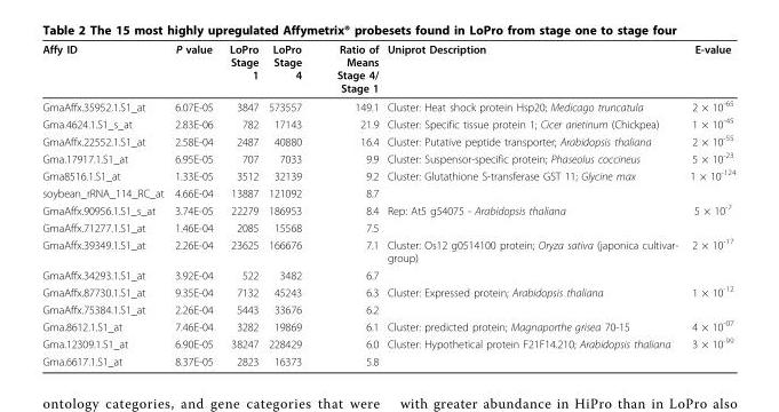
<table><thead><tr><td>Affy ID</td><td>P value</td><td>LoPro Stage 1</td><td>LoPro Stage 4</td><td>Ratio of Means Stage 4/ Stage 1</td><td>Uniprot Description</td><td>E-value</td></tr></thead><tbody><tr><td>GmaAffx.35952.1.S1_at</td><td>6.07E-05</td><td>3847</td><td>573557</td><td>149.1</td><td>Cluster: Heat shock protein Hsp20; Medicago truncatula</td><td>2 × 10<sup>-65</sup></td></tr><tr><td>Gma.4624.1.S1_s_at</td><td>2.83E-06</td><td>782</td><td>17143</td><td>21.9</td><td>Cluster: Specific tissue protein 1; Cicer arietinum (Chickpea)</td><td>1 × 10<sup>-45</sup></td></tr><tr><td>GmaAffx.22552.1.S1_at</td><td>2.58E-04</td><td>2487</td><td>40880</td><td>16.4</td><td>Cluster: Putative peptide transporter; Arabidopsis thaliana</td><td>2 × 10<sup>-55</sup></td></tr><tr><td>Gma.17917.1.S1_at</td><td>6.95E-05</td><td>707</td><td>7033</td><td>9.9</td><td>Cluster: Suspensor-specific protein; Phaseolus coccineus</td><td>5 × 10<sup>-23</sup></td></tr><tr><td>Gma8516.1.S1_at</td><td>1.33E-05</td><td>3512</td><td>32139</td><td>9.2</td><td>Cluster: Glutathione S-transferase GST 11; Glycine max</td><td>1 × 10<sup>-124</sup></td></tr><tr><td>soybean_rRNA_114_RC_at</td><td>4.66E-04</td><td>13887</td><td>121092</td><td>8.7</td><td></td><td></td></tr><tr><td>GmaAffx.90956.1.S1_s_at</td><td>3.74E-05</td><td>22279</td><td>186953</td><td>8.4</td><td>Rep: At5 g54075 - Arabidopsis thaliana</td><td>5 × 10<sup>-7</sup></td></tr><tr><td>GmaAffx.71277.1.S1_at</td><td>1.46E-04</td><td>2085</td><td>15568</td><td>7.5</td><td></td><td></td></tr><tr><td>GmaAffx.39349.1.S1_at</td><td>2.26E-04</td><td>23625</td><td>166676</td><td>7.1</td><td>Cluster: Os12 g0514100 protein; Oryza sativa (japonica cultivar- group)</td><td>2 × 10<sup>-17</sup></td></tr><tr><td>GmaAffx.34293.1.S1_at</td><td>3.92E-04</td><td>522</td><td>3482</td><td>6.7</td><td></td><td></td></tr><tr><td>GmaAffx.87730.1.S1_at</td><td>9.35E-04</td><td>7132</td><td>45243</td><td>6.3</td><td>Cluster: Expressed protein; Arabidopsis thaliana</td><td>1 × 10<sup>-12</sup></td></tr><tr><td>GmaAffx.75384.1.S1_at</td><td>2.26E-04</td><td>5443</td><td>33676</td><td>6.2</td><td></td><td></td></tr><tr><td>Gma.8612.1.S1_at</td><td>7.46E-04</td><td>3282</td><td>19869</td><td>6.1</td><td>Cluster: predicted protein; Magnaporthe grisea 70-15</td><td>4 × 10<sup>-07</sup></td></tr><tr><td>Gma.12309.1.S1_at</td><td>6.90E-05</td><td>38247</td><td>228429</td><td>6.0</td><td>Cluster: Hypothetical protein F21F14.210; Arabidopsis thaliana</td><td>3 × 10<sup>-99</sup></td></tr><tr><td>Gma.6617.1.S1_at</td><td>8.37E-05</td><td>2823</td><td>16373</td><td>5.8</td><td></td><td></td></tr></tbody></table>